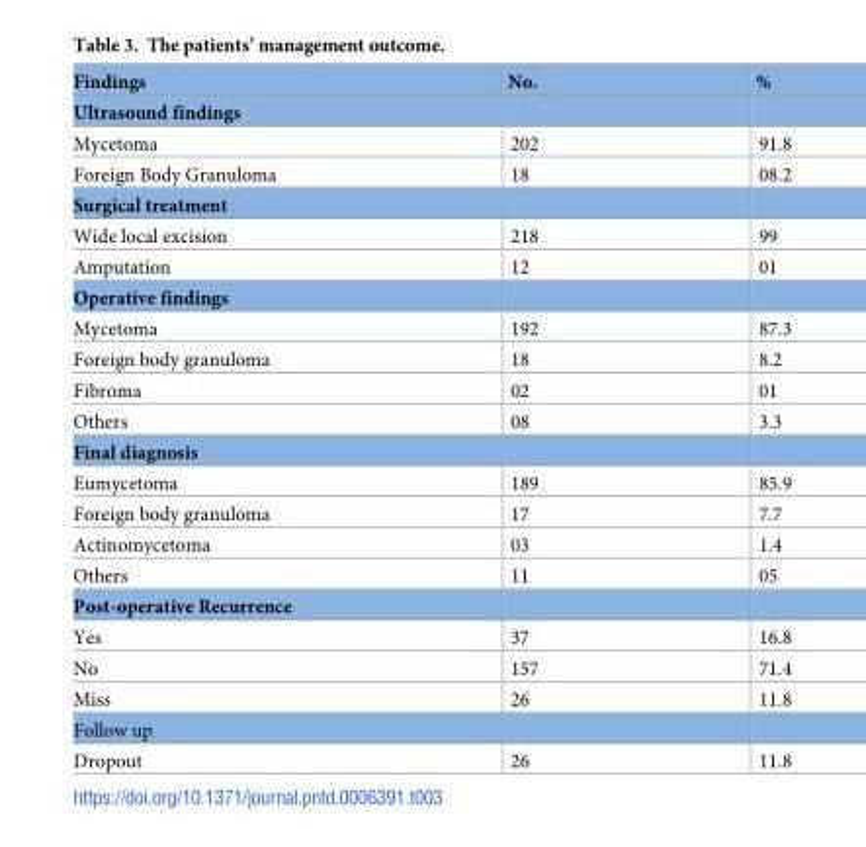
<table><thead><tr><td>Findings</td><td>No.</td><td>%</td></tr></thead><tbody><tr><td colspan="3">Ultrasound findings</td></tr><tr><td>Mycetoma</td><td>202</td><td>91.8</td></tr><tr><td>Foreign Body Granuloma</td><td>18</td><td>08.2</td></tr><tr><td colspan="3">Surgical treatment</td></tr><tr><td>Wide local excision</td><td>218</td><td>99</td></tr><tr><td>Amputation</td><td>12</td><td>01</td></tr><tr><td colspan="3">Operative findings</td></tr><tr><td>Mycetoma</td><td>192</td><td>87.3</td></tr><tr><td>Foreign body granuloma</td><td>18</td><td>8.2</td></tr><tr><td>Fibroma</td><td>02</td><td>01</td></tr><tr><td>Others</td><td>08</td><td>3.3</td></tr><tr><td colspan="3">Final diagnosis</td></tr><tr><td>Eumycetoma</td><td>189</td><td>85.9</td></tr><tr><td>Foreign body granuloma</td><td>17</td><td>7.7</td></tr><tr><td>Actinomycetoma</td><td>03</td><td>1.4</td></tr><tr><td>Others</td><td>11</td><td>05</td></tr><tr><td colspan="3">Post-operative Recurrence</td></tr><tr><td>Yes</td><td>37</td><td>16.8</td></tr><tr><td>No</td><td>157</td><td>71.4</td></tr><tr><td>Miss</td><td>26</td><td>11.8</td></tr><tr><td colspan="3">Follow up</td></tr><tr><td>Dropout</td><td>26</td><td>11.8</td></tr></tbody></table>